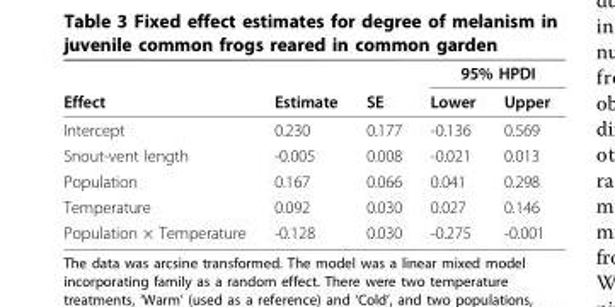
<table><thead><tr><td rowspan="2">Effect</td><td rowspan="2">Estimate</td><td rowspan="2">SE</td><td colspan="2">95% HPDI</td></tr><tr><td>Lower</td><td>Upper</td></tr></thead><tbody><tr><td>Intercept</td><td>0.230</td><td>0.177</td><td>-0.136</td><td>0.569</td></tr><tr><td>Snout-vent length</td><td>-0.005</td><td>0.008</td><td>-0.021</td><td>0.013</td></tr><tr><td>Population</td><td>0.167</td><td>0.066</td><td>0.041</td><td>0.298</td></tr><tr><td>Temperature</td><td>0.092</td><td>0.030</td><td>0.027</td><td>0.146</td></tr><tr><td>Population × Temperature</td><td>-0.128</td><td>0.030</td><td>-0.275</td><td>-0.001</td></tr></tbody></table>